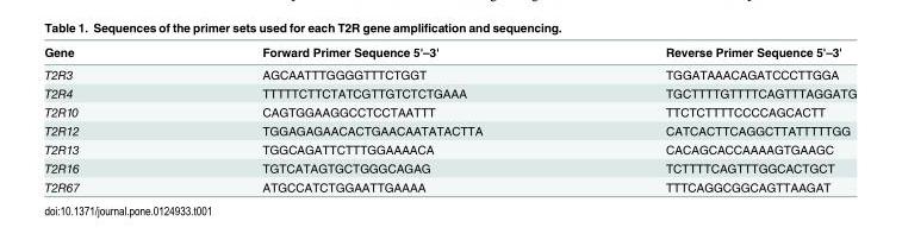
<table><thead><tr><td>Gene</td><td>Forward Primer Sequence 5&#x27;–3&#x27;</td><td>Reverse Primer Sequence 5&#x27;–3&#x27;</td></tr></thead><tbody><tr><td>T2R3</td><td>AGCAATTTGGGGTTTCTGGT</td><td>TGGATAAACAGATCCCTTGGA</td></tr><tr><td>T2R4</td><td>TTTTTCTTCTATCGTTGTCTCTGAAA</td><td>TGCTTTTGTTTTCAGTTTAGGATG</td></tr><tr><td>T2R10</td><td>CAGTGGAAGGCCTCCTAATTT</td><td>TTCTCTTTTCCCCAGCACTT</td></tr><tr><td>T2R12</td><td>TGGAGAGAACACTGAACAATATACTTA</td><td>CATCACTTCAGGCTTATTTTTGG</td></tr><tr><td>T2R13</td><td>TGGCAGATTCTTTGGAAAACA</td><td>CACAGCACCAAAAGTGAAGC</td></tr><tr><td>T2R16</td><td>TGTCATAGTGCTGGGCAGAG</td><td>TCTTTTCAGTTTGGCACTGCT</td></tr><tr><td>T2R67</td><td>ATGCCATCTGGAATTGAAAA</td><td>TTTCAGGCGGCAGTTAAGAT</td></tr></tbody></table>